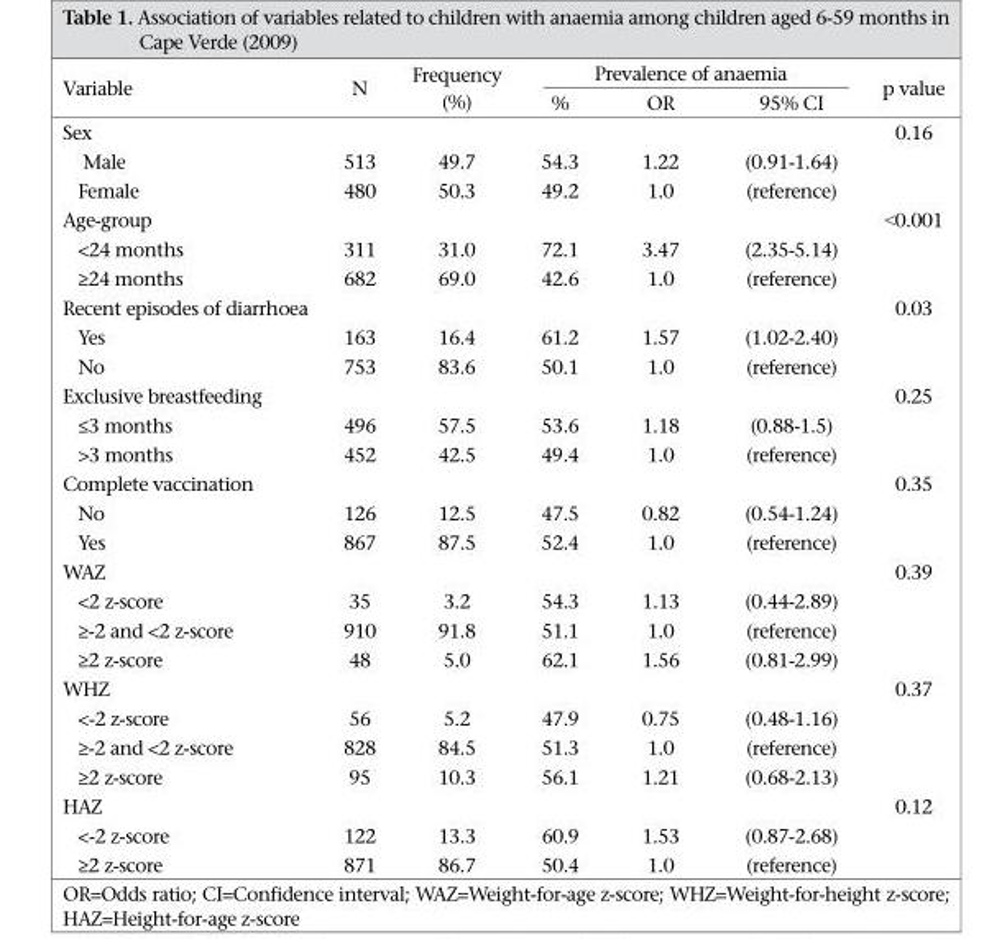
<table><thead><tr><td rowspan="2">Variable</td><td rowspan="2">N</td><td rowspan="2">Frequency (%)</td><td colspan="3">Prevalence of anaemia</td><td rowspan="2">p value</td></tr><tr><td>%</td><td>OR</td><td>95% CI</td></tr></thead><tbody><tr><td>Sex</td><td></td><td></td><td></td><td></td><td></td><td>0.16</td></tr><tr><td>Male</td><td>513</td><td>49.7</td><td>54.3</td><td>1.22</td><td>(0.91-1.64)</td><td></td></tr><tr><td>Female</td><td>480</td><td>50.3</td><td>49.2</td><td>1.0</td><td>(reference)</td><td></td></tr><tr><td>Age-group</td><td></td><td></td><td></td><td></td><td></td><td>&lt;0.001</td></tr><tr><td>&lt;24 months</td><td>311</td><td>31.0</td><td>72.1</td><td>3.47</td><td>(2.35-5.14)</td><td></td></tr><tr><td>≥24 months</td><td>682</td><td>69.0</td><td>42.6</td><td>1.0</td><td>(reference)</td><td></td></tr><tr><td>Recent episodes of diarrhoea</td><td></td><td></td><td></td><td></td><td></td><td>0.03</td></tr><tr><td>Yes</td><td>163</td><td>16.4</td><td>61.2</td><td>1.57</td><td>(1.02-2.40)</td><td></td></tr><tr><td>No</td><td>753</td><td>83.6</td><td>50.1</td><td>1.0</td><td>(reference)</td><td></td></tr><tr><td>Exclusive breastfeeding</td><td></td><td></td><td></td><td></td><td></td><td>0.25</td></tr><tr><td>≤3 months</td><td>496</td><td>57.5</td><td>53.6</td><td>1.18</td><td>(0.88-1.5)</td><td></td></tr><tr><td>&gt;3 months</td><td>452</td><td>42.5</td><td>49.4</td><td>1.0</td><td>(reference)</td><td></td></tr><tr><td>Complete vaccination</td><td></td><td></td><td></td><td></td><td></td><td>0.35</td></tr><tr><td>No</td><td>126</td><td>12.5</td><td>47.5</td><td>0.82</td><td>(0.54-1.24)</td><td></td></tr><tr><td>Yes</td><td>867</td><td>87.5</td><td>52.4</td><td>1.0</td><td>(reference)</td><td></td></tr><tr><td>WAZ</td><td></td><td></td><td></td><td></td><td></td><td>0.39</td></tr><tr><td>&lt;2 z-score</td><td>35</td><td>3.2</td><td>54.3</td><td>1.13</td><td>(0.44-2.89)</td><td></td></tr><tr><td>≥-2 and &lt;2 z-score</td><td>910</td><td>91.8</td><td>51.1</td><td>1.0</td><td>(reference)</td><td></td></tr><tr><td>≥2 z-score</td><td>48</td><td>5.0</td><td>62.1</td><td>1.56</td><td>(0.81-2.99)</td><td></td></tr><tr><td>WHZ</td><td></td><td></td><td></td><td></td><td></td><td>0.37</td></tr><tr><td>&lt;-2 z-score</td><td>56</td><td>5.2</td><td>47.9</td><td>0.75</td><td>(0.48-1.16)</td><td></td></tr><tr><td>≥-2 and &lt;2 z-score</td><td>828</td><td>84.5</td><td>51.3</td><td>1.0</td><td>(reference)</td><td></td></tr><tr><td>≥2 z-score</td><td>95</td><td>10.3</td><td>56.1</td><td>1.21</td><td>(0.68-2.13)</td><td></td></tr><tr><td>HAZ</td><td></td><td></td><td></td><td></td><td></td><td>0.12</td></tr><tr><td>&lt;-2 z-score</td><td>122</td><td>13.3</td><td>60.9</td><td>1.53</td><td>(0.87-2.68)</td><td></td></tr><tr><td>≥2 z-score</td><td>871</td><td>86.7</td><td>50.4</td><td>1.0</td><td>(reference)</td><td></td></tr></tbody></table>